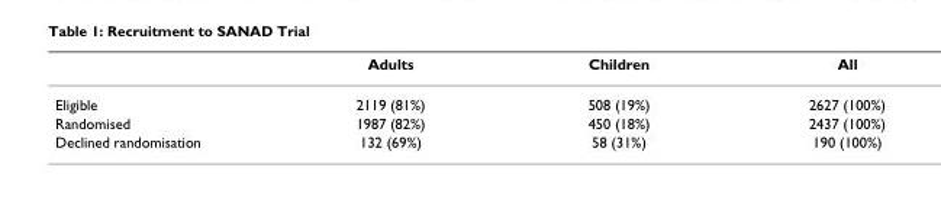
<table><thead><tr><td></td><td>Adults</td><td>Children</td><td>All</td></tr></thead><tbody><tr><td>Eligible</td><td>2119 (81%)</td><td>508 (19%)</td><td>2627 (100%)</td></tr><tr><td>Randomised</td><td>1987 (82%)</td><td>450 (18%)</td><td>2437 (100%)</td></tr><tr><td>Declined randomisation</td><td>132 (69%)</td><td>58 (31%)</td><td>190 (100%)</td></tr></tbody></table>